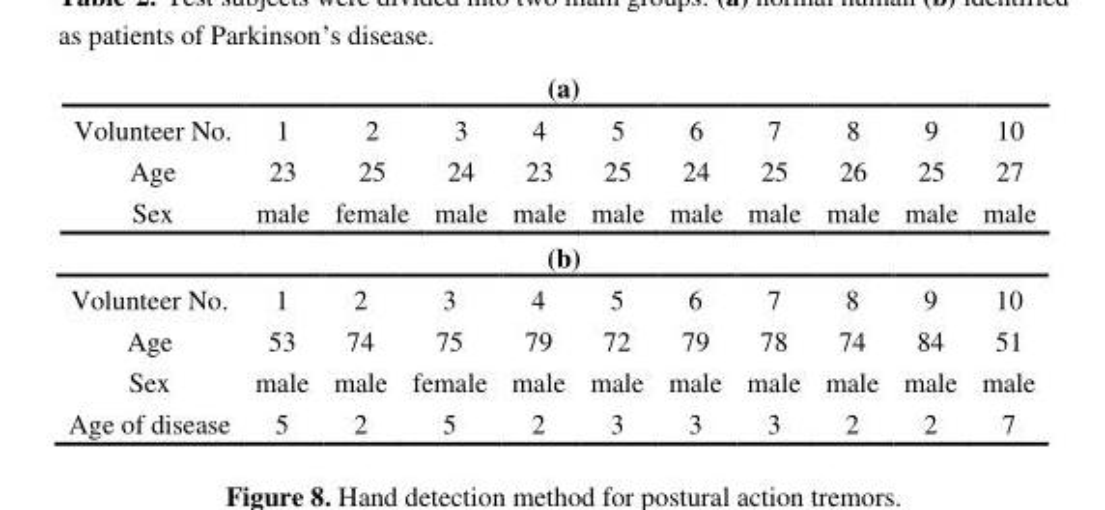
<table><tbody><tr><td colspan="11">(a)</td></tr><tr><td>Volunteer No.</td><td>1</td><td>2</td><td>3</td><td>4</td><td>5</td><td>6</td><td>7</td><td>8</td><td>9</td><td>10</td></tr><tr><td>Age</td><td>23</td><td>25</td><td>24</td><td>23</td><td>25</td><td>24</td><td>25</td><td>26</td><td>25</td><td>27</td></tr><tr><td>Sex</td><td>male</td><td>female</td><td>male</td><td>male</td><td>male</td><td>male</td><td>male</td><td>male</td><td>male</td><td>male</td></tr><tr><td colspan="11">(b)</td></tr><tr><td>Volunteer No.</td><td>1</td><td>2</td><td>3</td><td>4</td><td>5</td><td>6</td><td>7</td><td>8</td><td>9</td><td>10</td></tr><tr><td>Age</td><td>53</td><td>74</td><td>75</td><td>79</td><td>72</td><td>79</td><td>78</td><td>74</td><td>84</td><td>51</td></tr><tr><td>Sex</td><td>male</td><td>male</td><td>female</td><td>male</td><td>male</td><td>male</td><td>male</td><td>male</td><td>male</td><td>male</td></tr><tr><td>Age of disease</td><td>5</td><td>2</td><td>5</td><td>2</td><td>3</td><td>3</td><td>3</td><td>2</td><td>2</td><td>7</td></tr></tbody></table>